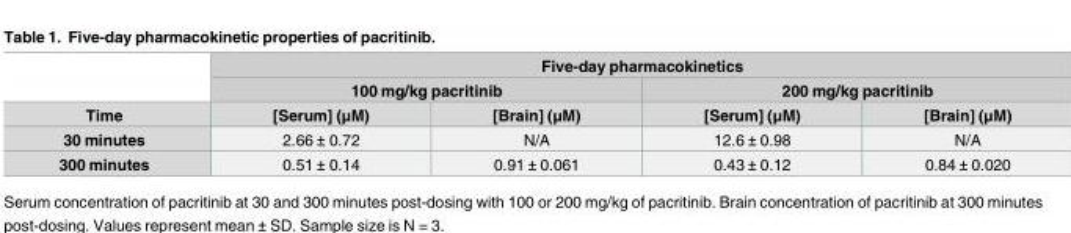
<table><thead><tr><td rowspan="3">Time</td><td colspan="4">Five-day pharmacokinetics</td></tr><tr><td colspan="2">100 mg/kg pacritinib</td><td colspan="2">200 mg/kg pacritinib</td></tr><tr><td>[Serum] (μM)</td><td>[Brain] (μM)</td><td>[Serum] (μM)</td><td>[Brain] (μM)</td></tr></thead><tbody><tr><td>30 minutes</td><td>2.66 ± 0.72</td><td>N/A</td><td>12.6 ± 0.98</td><td>N/A</td></tr><tr><td>300 minutes</td><td>0.51 ± 0.14</td><td>0.91 ± 0.061</td><td>0.43 ± 0.12</td><td>0.84 ± 0.020</td></tr></tbody></table>